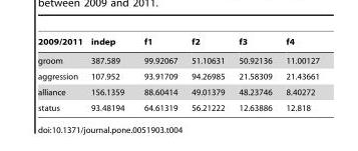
<table><thead><tr><td>2009/2011</td><td>indep</td><td>f1</td><td>f2</td><td>f3</td><td>f4</td></tr></thead><tbody><tr><td>groom</td><td>387.589</td><td>99.92067</td><td>51.10631</td><td>50.92136</td><td>11.00127</td></tr><tr><td>aggression</td><td>107.952</td><td>93.91709</td><td>94.26985</td><td>21.58309</td><td>21.43661</td></tr><tr><td>alliance</td><td>156.1359</td><td>88.60414</td><td>49.01379</td><td>48.23746</td><td>8.40272</td></tr><tr><td>status</td><td>93.48194</td><td>64.61319</td><td>56.21222</td><td>12.63886</td><td>12.818</td></tr></tbody></table>